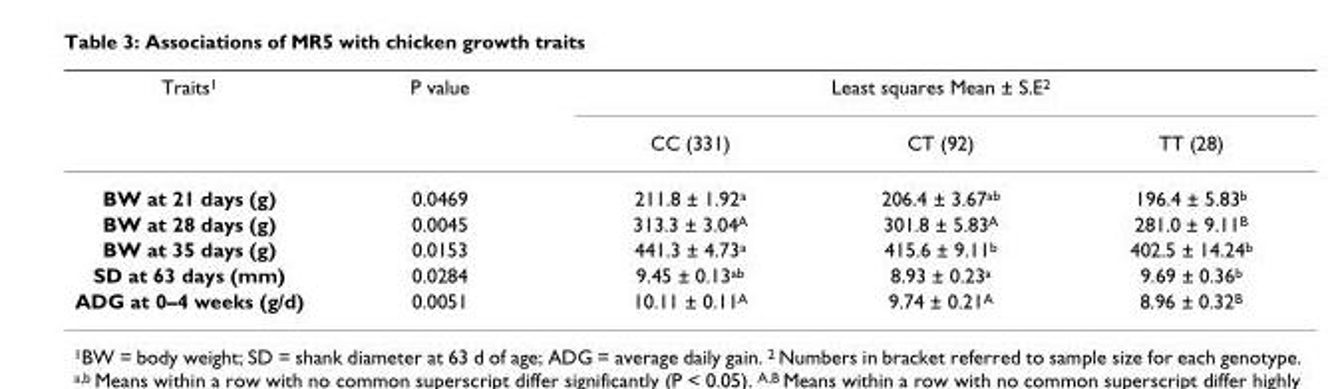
<table><thead><tr><td rowspan="2">Traits<sup>1</sup></td><td rowspan="2">P value</td><td colspan="3">Least squares Mean ± S.E<sup>2</sup></td></tr><tr><td>CC (331)</td><td>CT (92)</td><td>TT (28)</td></tr></thead><tbody><tr><td>BW at 21 days (g)</td><td>0.0469</td><td>211.8 ± 1.92<sup>a</sup></td><td>206.4 ± 3.67<sup>ab</sup></td><td>196.4 ± 5.83<sup>b</sup></td></tr><tr><td>BW at 28 days (g)</td><td>0.0045</td><td>313.3 ± 3.04<sup>A</sup></td><td>301.8 ± 5.83<sup>A</sup></td><td>281.0 ± 9.11<sup>B</sup></td></tr><tr><td>BW at 35 days (g)</td><td>0.0153</td><td>441.3 ± 4.73<sup>a</sup></td><td>415.6 ± 9.11<sup>b</sup></td><td>402.5 ± 14.24<sup>b</sup></td></tr><tr><td>SD at 63 days (mm)</td><td>0.0284</td><td>9.45 ± 0.13<sup>ab</sup></td><td>8.93 ± 0.23<sup>a</sup></td><td>9.69 ± 0.36<sup>b</sup></td></tr><tr><td>ADG at 0–4 weeks (g/d)</td><td>0.0051</td><td>10.11 ± 0.11<sup>A</sup></td><td>9.74 ± 0.21<sup>A</sup></td><td>8.96 ± 0.32<sup>B</sup></td></tr></tbody></table>